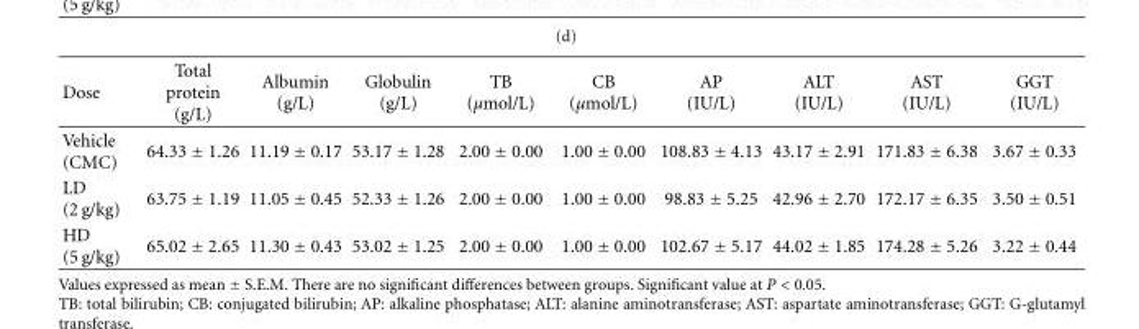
<table><thead><tr><td>Dose</td><td>Total protein (g/L)</td><td>Albumin (g/L)</td><td>Globulin (g/L)</td><td>TB (µmol/L)</td><td>CB (µmol/L)</td><td>AP (IU/L)</td><td>ALT (IU/L)</td><td>AST (IU/L)</td><td>GGT (IU/L)</td></tr></thead><tbody><tr><td>Vehicle (CMC)</td><td>64.33 ± 1.26</td><td>11.19 ± 0.17</td><td>53.17 ± 1.28</td><td>2.00 ± 0.00</td><td>1.00 ± 0.00</td><td>108.83 ± 4.13</td><td>43.17 ± 2.91</td><td>171.83 ± 6.38</td><td>3.67 ± 0.33</td></tr><tr><td>LD (2 g/kg)</td><td>63.75 ± 1.19</td><td>11.05 ± 0.45</td><td>52.33 ± 1.26</td><td>2.00 ± 0.00</td><td>1.00 ± 0.00</td><td>98.83 ± 5.25</td><td>42.96 ± 2.70</td><td>172.17 ± 6.35</td><td>3.50 ± 0.51</td></tr><tr><td>HD (5 g/kg)</td><td>65.02 ± 2.65</td><td>11.30 ± 0.43</td><td>53.02 ± 1.25</td><td>2.00 ± 0.00</td><td>1.00 ± 0.00</td><td>102.67 ± 5.17</td><td>44.02 ± 1.85</td><td>174.28 ± 5.26</td><td>3.22 ± 0.44</td></tr></tbody></table>